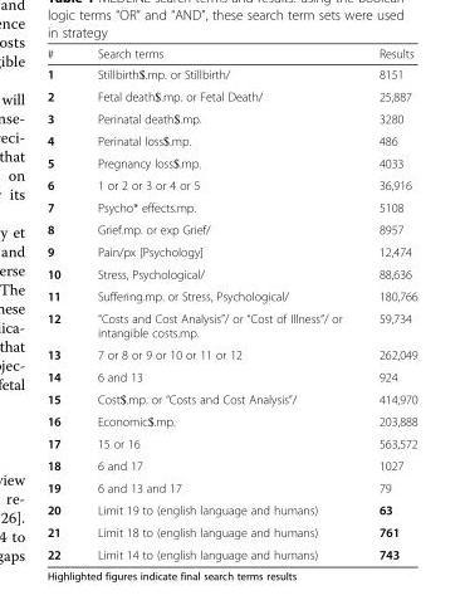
<table><thead><tr><td>#</td><td>Search terms</td><td>Results</td></tr></thead><tbody><tr><td>1</td><td>Stillbirth$.mp. or Stillbirth/</td><td>8151</td></tr><tr><td>2</td><td>Fetal death$.mp. or Fetal Death/</td><td>25,887</td></tr><tr><td>3</td><td>Perinatal death$.mp.</td><td>3280</td></tr><tr><td>4</td><td>Perinatal loss$.mp.</td><td>486</td></tr><tr><td>5</td><td>Pregnancy loss$.mp.</td><td>4033</td></tr><tr><td>6</td><td>1 or 2 or 3 or 4 or 5</td><td>36,916</td></tr><tr><td>7</td><td>Psycho* effects.mp.</td><td>5108</td></tr><tr><td>8</td><td>Grief.mp. or exp Grief/</td><td>8957</td></tr><tr><td>9</td><td>Pain/px [Psychology]</td><td>12,474</td></tr><tr><td>10</td><td>Stress, Psychological/</td><td>88,636</td></tr><tr><td>11</td><td>Suffering.mp. or Stress, Psychological/</td><td>180,766</td></tr><tr><td>12</td><td>“Costs and Cost Analysis”/ or “Cost of Illness”/ or intangible costs.mp.</td><td>59,734</td></tr><tr><td>13</td><td>7 or 8 or 9 or 10 or 11 or 12</td><td>262,049</td></tr><tr><td>14</td><td>6 and 13</td><td>924</td></tr><tr><td>15</td><td>Cost$.mp. or “Costs and Cost Analysis”/</td><td>414,970</td></tr><tr><td>16</td><td>Economic$.mp.</td><td>203,888</td></tr><tr><td>17</td><td>15 or 16</td><td>563,572</td></tr><tr><td>18</td><td>6 and 17</td><td>1027</td></tr><tr><td>19</td><td>6 and 13 and 17</td><td>79</td></tr><tr><td>20</td><td>Limit 19 to (english language and humans)</td><td>63</td></tr><tr><td>21</td><td>Limit 18 to (english language and humans)</td><td>761</td></tr><tr><td>22</td><td>Limit 14 to (english language and humans)</td><td>743</td></tr></tbody></table>